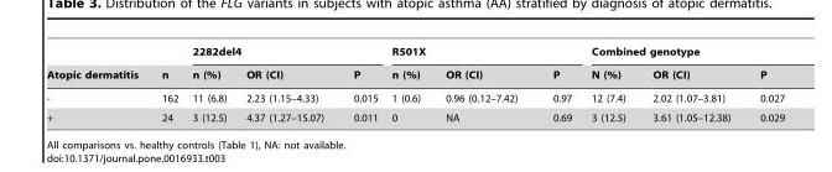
<table><thead><tr><td rowspan="2">Atopic dermatitis</td><td rowspan="2">n</td><td colspan="3">2282del4</td><td colspan="3">R501X</td><td colspan="3">Combined genotype</td></tr><tr><td>n (%)</td><td>OR (CI)</td><td>P</td><td>n (%)</td><td>OR (CI)</td><td>P</td><td>N (%)</td><td>OR (CI)</td><td>P</td></tr></thead><tbody><tr><td>-</td><td>162</td><td>11 (6.8)</td><td>2.23 (1.15–4.33)</td><td>0.015</td><td>1 (0.6)</td><td>0.96 (0.12–7.42)</td><td>0.97</td><td>12 (7.4)</td><td>2.02 (1.07–3.81)</td><td>0.027</td></tr><tr><td>+</td><td>24</td><td>3 (12.5)</td><td>4.37 (1.27–15.07)</td><td>0.011</td><td>0</td><td>NA</td><td>0.69</td><td>3 (12.5)</td><td>3.61 (1.05–12.38)</td><td>0.029</td></tr></tbody></table>